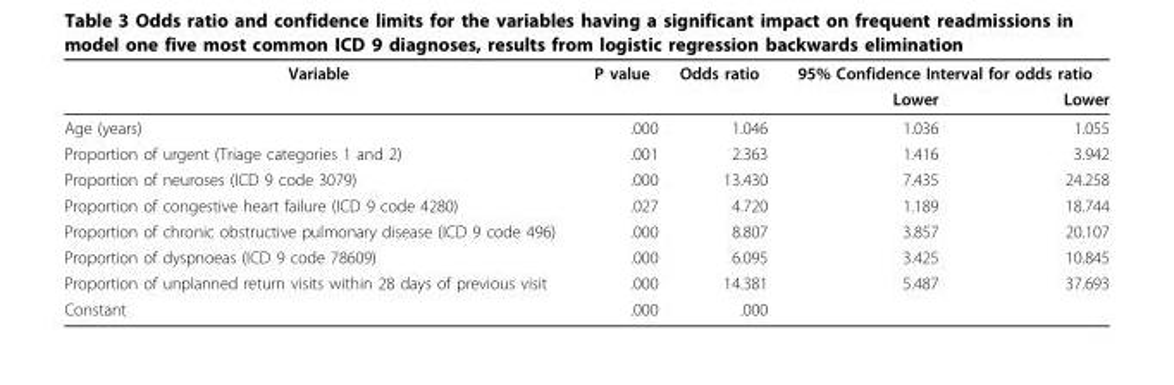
<table><thead><tr><td rowspan="2">Variable</td><td rowspan="2">P value</td><td rowspan="2">Odds ratio</td><td colspan="2">95% Confidence Interval for odds ratio</td></tr><tr><td>Lower</td><td>Lower</td></tr></thead><tbody><tr><td>Age (years)</td><td>.000</td><td>1.046</td><td>1.036</td><td>1.055</td></tr><tr><td>Proportion of urgent (Triage categories 1 and 2)</td><td>.001</td><td>2.363</td><td>1.416</td><td>3.942</td></tr><tr><td>Proportion of neuroses (ICD 9 code 3079)</td><td>.000</td><td>13.430</td><td>7.435</td><td>24.258</td></tr><tr><td>Proportion of congestive heart failure (ICD 9 code 4280)</td><td>.027</td><td>4.720</td><td>1.189</td><td>18.744</td></tr><tr><td>Proportion of chronic obstructive pulmonary disease (ICD 9 code 496)</td><td>.000</td><td>8.807</td><td>3.857</td><td>20.107</td></tr><tr><td>Proportion of dyspnoeas (ICD 9 code 78609)</td><td>.000</td><td>6.095</td><td>3.425</td><td>10.845</td></tr><tr><td>Proportion of unplanned return visits within 28 days of previous visit</td><td>.000</td><td>14.381</td><td>5.487</td><td>37.693</td></tr><tr><td>Constant</td><td>.000</td><td>.000</td><td></td><td></td></tr></tbody></table>